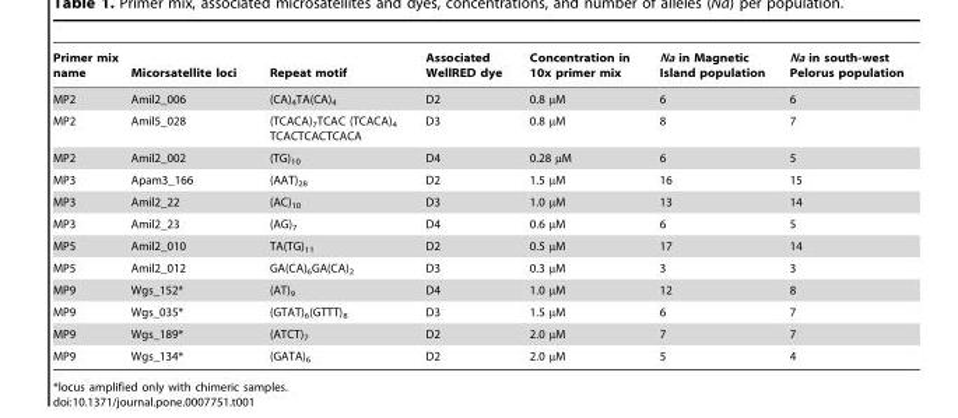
<table><thead><tr><td>Primer mix name</td><td>Micorsatellite loci</td><td>Repeat motif</td><td>Associated WellRED dye</td><td>Concentration in 10x primer mix</td><td>Na in Magnetic Island population</td><td>Na in south-west Pelorus population</td></tr></thead><tbody><tr><td>MP2</td><td>Amil2_006</td><td>(CA)<sub>4</sub>TA(CA)<sub>4</sub></td><td>D2</td><td>0.8 µM</td><td>6</td><td>6</td></tr><tr><td>MP2</td><td>Amil5_028</td><td>(TCACA)<sub>7</sub>TCAC (TCACA)<sub>4</sub> TCACTCACTCACA</td><td>D3</td><td>0.8 µM</td><td>8</td><td>7</td></tr><tr><td>MP2</td><td>Amil2_002</td><td>(TG)<sub>10</sub></td><td>D4</td><td>0.28 µM</td><td>6</td><td>5</td></tr><tr><td>MP3</td><td>Apam3_166</td><td>(AAT)<sub>28</sub></td><td>D2</td><td>1.5 µM</td><td>16</td><td>15</td></tr><tr><td>MP3</td><td>Amil2_22</td><td>(AC)<sub>10</sub></td><td>D3</td><td>1.0 µM</td><td>13</td><td>14</td></tr><tr><td>MP3</td><td>Amil2_23</td><td>(AG)<sub>7</sub></td><td>D4</td><td>0.6 µM</td><td>6</td><td>5</td></tr><tr><td>MP5</td><td>Amil2_010</td><td>TA(TG)<sub>11</sub></td><td>D2</td><td>0.5 µM</td><td>17</td><td>14</td></tr><tr><td>MP5</td><td>Amil2_012</td><td>GA(CA)<sub>6</sub>GA(CA)<sub>2</sub></td><td>D3</td><td>0.3 µM</td><td>3</td><td>3</td></tr><tr><td>MP9</td><td>Wgs_152*</td><td>(AT)<sub>9</sub></td><td>D4</td><td>1.0 µM</td><td>12</td><td>8</td></tr><tr><td>MP9</td><td>Wgs_035*</td><td>(GTAT)<sub>6</sub>(GTTT)<sub>8</sub></td><td>D3</td><td>1.5 µM</td><td>6</td><td>7</td></tr><tr><td>MP9</td><td>Wgs_189*</td><td>(ATCT)<sub>7</sub></td><td>D2</td><td>2.0 µM</td><td>7</td><td>7</td></tr><tr><td>MP9</td><td>Wgs_134*</td><td>(GATA)<sub>6</sub></td><td>D2</td><td>2.0 µM</td><td>5</td><td>4</td></tr></tbody></table>